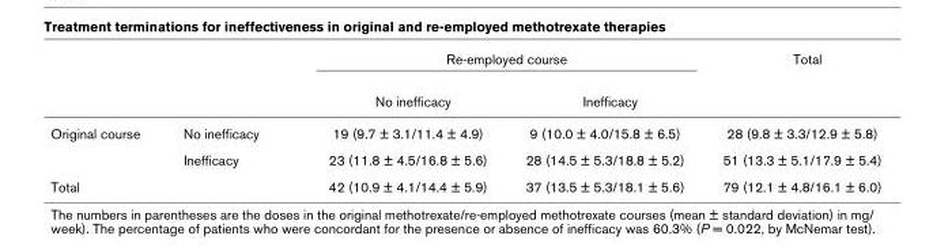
<table><thead><tr><td rowspan="2"></td><td rowspan="2"></td><td colspan="2">Re-employed course</td><td rowspan="2">Total</td></tr><tr><td>No inefficacy</td><td>Inefficacy</td></tr></thead><tbody><tr><td rowspan="2">Original course</td><td>No inefficacy</td><td>19 (9.7 ± 3.1/11.4 ± 4.9)</td><td>9 (10.0 ± 4.0/15.8 ± 6.5)</td><td>28 (9.8 ± 3.3/12.9 ± 5.8)</td></tr><tr><td>Inefficacy</td><td>23 (11.8 ± 4.5/16.8 ± 5.6)</td><td>28 (14.5 ± 5.3/18.8 ± 5.2)</td><td>51 (13.3 ± 5.1/17.9 ± 5.4)</td></tr><tr><td colspan="2">Total</td><td>42 (10.9 ± 4.1/14.4 ± 5.9)</td><td>37 (13.5 ± 5.3/18.1 ± 5.6)</td><td>79 (12.1 ± 4.8/16.1 ± 6.0)</td></tr></tbody></table>